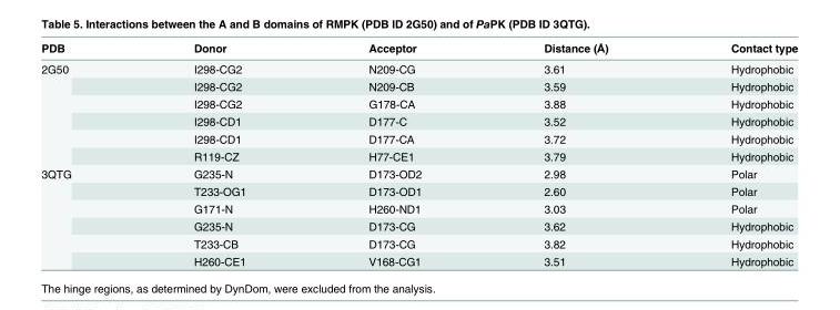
<table><thead><tr><td>PDB</td><td>Donor</td><td>Acceptor</td><td>Distance (Å)</td><td>Contact type</td></tr></thead><tbody><tr><td rowspan="6">2G50</td><td>I298-CG2</td><td>N209-CG</td><td>3.61</td><td>Hydrophobic</td></tr><tr><td>I298-CG2</td><td>N209-CB</td><td>3.59</td><td>Hydrophobic</td></tr><tr><td>I298-CG2</td><td>G178-CA</td><td>3.88</td><td>Hydrophobic</td></tr><tr><td>I298-CD1</td><td>D177-C</td><td>3.52</td><td>Hydrophobic</td></tr><tr><td>I298-CD1</td><td>D177-CA</td><td>3.72</td><td>Hydrophobic</td></tr><tr><td>R119-CZ</td><td>H77-CE1</td><td>3.79</td><td>Hydrophobic</td></tr><tr><td rowspan="6">3QTG</td><td>G235-N</td><td>D173-OD2</td><td>2.98</td><td>Polar</td></tr><tr><td>T233-OG1</td><td>D173-OD1</td><td>2.60</td><td>Polar</td></tr><tr><td>G171-N</td><td>H260-ND1</td><td>3.03</td><td>Polar</td></tr><tr><td>G235-N</td><td>D173-CG</td><td>3.62</td><td>Hydrophobic</td></tr><tr><td>T233-CB</td><td>D173-CG</td><td>3.82</td><td>Hydrophobic</td></tr><tr><td>H260-CE1</td><td>V168-CG1</td><td>3.51</td><td>Hydrophobic</td></tr></tbody></table>